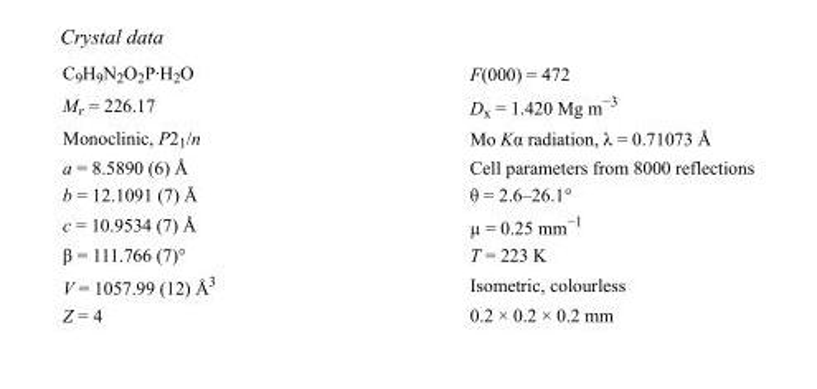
<table><tbody><tr><td>C<sub>9</sub>H<sub>9</sub>N<sub>2</sub>O<sub>2</sub>P·H<sub>2</sub>O</td><td>F(000) = 472</td></tr><tr><td>M<sub>r</sub> = 226.17</td><td>D<sub>x</sub> = 1.420 Mg m<sup>−3</sup></td></tr><tr><td>Monoclinic, P2<sub>1</sub>/n</td><td>Mo Kα radiation, λ = 0.71073 Å</td></tr><tr><td>a = 8.5890 (6) Å</td><td>Cell parameters from 8000 reflections</td></tr><tr><td>b = 12.1091 (7) Å</td><td>θ = 2.6–26.1°</td></tr><tr><td>c = 10.9534 (7) Å</td><td>µ = 0.25 mm<sup>−1</sup></td></tr><tr><td>β = 111.766 (7)°</td><td>T = 223 K</td></tr><tr><td>V = 1057.99 (12) Å<sup>3</sup></td><td>Isometric, colourless</td></tr><tr><td>Z = 4</td><td>0.2 × 0.2 × 0.2 mm</td></tr></tbody></table>